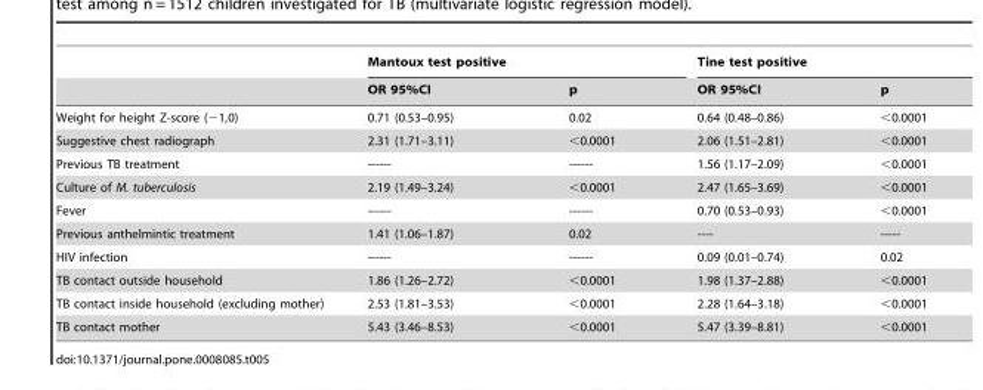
<table><thead><tr><td rowspan="2"></td><td colspan="2">Mantoux test positive</td><td colspan="2">Tine test positive</td></tr><tr><td>OR 95%CI</td><td>p</td><td>OR 95%CI</td><td>p</td></tr></thead><tbody><tr><td>Weight for height Z-score (−1,0)</td><td>0.71 (0.53–0.95)</td><td>0.02</td><td>0.64 (0.48–0.86)</td><td>&lt;0.0001</td></tr><tr><td>Suggestive chest radiograph</td><td>2.31 (1.71–3.11)</td><td>&lt;0.0001</td><td>2.06 (1.51–2.81)</td><td>&lt;0.0001</td></tr><tr><td>Previous TB treatment</td><td>------</td><td>------</td><td>1.56 (1.17–2.09)</td><td>&lt;0.0001</td></tr><tr><td>Culture of M. tuberculosis</td><td>2.19 (1.49–3.24)</td><td>&lt;0.0001</td><td>2.47 (1.65–3.69)</td><td>&lt;0.0001</td></tr><tr><td>Fever</td><td>------</td><td>------</td><td>0.70 (0.53–0.93)</td><td>&lt;0.0001</td></tr><tr><td>Previous anthelmintic treatment</td><td>1.41 (1.06–1.87)</td><td>0.02</td><td>----</td><td>-----</td></tr><tr><td>HIV infection</td><td>------</td><td>------</td><td>0.09 (0.01–0.74)</td><td>0.02</td></tr><tr><td>TB contact outside household</td><td>1.86 (1.26–2.72)</td><td>&lt;0.0001</td><td>1.98 (1.37–2.88)</td><td>&lt;0.0001</td></tr><tr><td>TB contact inside household (excluding mother)</td><td>2.53 (1.81–3.53)</td><td>&lt;0.0001</td><td>2.28 (1.64–3.18)</td><td>&lt;0.0001</td></tr><tr><td>TB contact mother</td><td>5.43 (3.46–8.53)</td><td>&lt;0.0001</td><td>5.47 (3.39–8.81)</td><td>&lt;0.0001</td></tr></tbody></table>